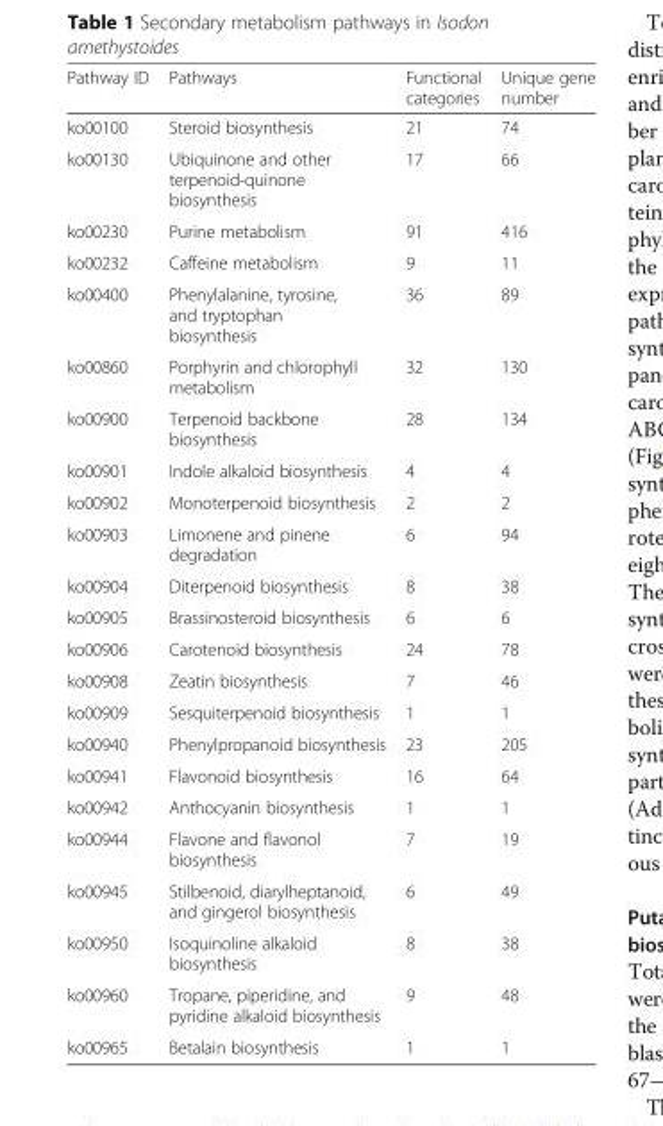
<table><thead><tr><td>Pathway ID</td><td>Pathways</td><td>Functional categories</td><td>Unique gene number</td></tr></thead><tbody><tr><td>ko00100</td><td>Steroid biosynthesis</td><td>21</td><td>74</td></tr><tr><td>ko00130</td><td>Ubiquinone and other terpenoid-quinone biosynthesis</td><td>17</td><td>66</td></tr><tr><td>ko00230</td><td>Purine metabolism</td><td>91</td><td>416</td></tr><tr><td>ko00232</td><td>Caffeine metabolism</td><td>9</td><td>11</td></tr><tr><td>ko00400</td><td>Phenylalanine, tyrosine, and tryptophan biosynthesis</td><td>36</td><td>89</td></tr><tr><td>ko00860</td><td>Porphyrin and chlorophyll metabolism</td><td>32</td><td>130</td></tr><tr><td>ko00900</td><td>Terpenoid backbone biosynthesis</td><td>28</td><td>134</td></tr><tr><td>ko00901</td><td>Indole alkaloid biosynthesis</td><td>4</td><td>4</td></tr><tr><td>ko00902</td><td>Monoterpenoid biosynthesis</td><td>2</td><td>2</td></tr><tr><td>ko00903</td><td>Limonene and pinene degradation</td><td>6</td><td>94</td></tr><tr><td>ko00904</td><td>Diterpenoid biosynthesis</td><td>8</td><td>38</td></tr><tr><td>ko00905</td><td>Brassinosteroid biosynthesis</td><td>6</td><td>6</td></tr><tr><td>ko00906</td><td>Carotenoid biosynthesis</td><td>24</td><td>78</td></tr><tr><td>ko00908</td><td>Zeatin biosynthesis</td><td>7</td><td>46</td></tr><tr><td>ko00909</td><td>Sesquiterpenoid biosynthesis</td><td>1</td><td>1</td></tr><tr><td>ko00940</td><td>Phenylpropanoid biosynthesis</td><td>23</td><td>205</td></tr><tr><td>ko00941</td><td>Flavonoid biosynthesis</td><td>16</td><td>64</td></tr><tr><td>ko00942</td><td>Anthocyanin biosynthesis</td><td>1</td><td>1</td></tr><tr><td>ko00944</td><td>Flavone and flavonol biosynthesis</td><td>7</td><td>19</td></tr><tr><td>ko00945</td><td>Stilbenoid, diarylheptanoid, and gingerol biosynthesis</td><td>6</td><td>49</td></tr><tr><td>ko00950</td><td>Isoquinoline alkaloid biosynthesis</td><td>8</td><td>38</td></tr><tr><td>ko00960</td><td>Tropane, piperidine, and pyridine alkaloid biosynthesis</td><td>9</td><td>48</td></tr><tr><td>ko00965</td><td>Betalain biosynthesis</td><td>1</td><td>1</td></tr></tbody></table>